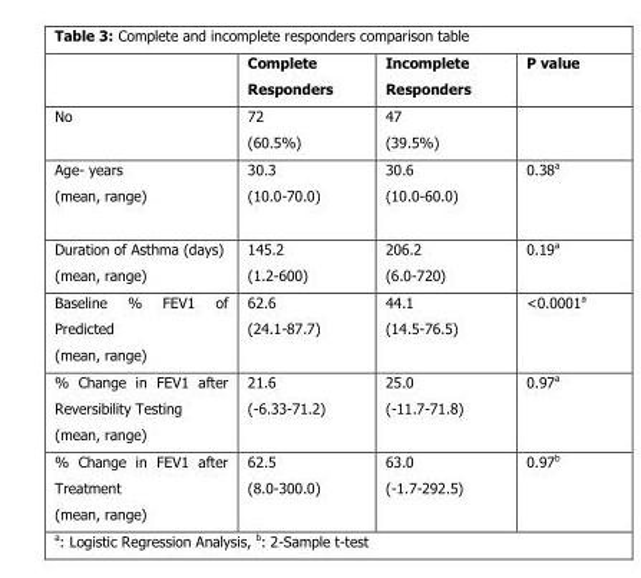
<table><thead><tr><td></td><td>Complete Responders</td><td>Incomplete Responders</td><td>P value</td></tr></thead><tbody><tr><td>No</td><td>72 (60.5%)</td><td>47 (39.5%)</td><td></td></tr><tr><td>Age- years (mean, range)</td><td>30.3 (10.0-70.0)</td><td>30.6 (10.0-60.0)</td><td>0.38<sup>a</sup></td></tr><tr><td>Duration of Asthma (days) (mean, range)</td><td>145.2 (1.2-600)</td><td>206.2 (6.0-720)</td><td>0.19<sup>a</sup></td></tr><tr><td>Baseline % FEV1 of Predicted (mean, range)</td><td>62.6 (24.1-87.7)</td><td>44.1 (14.5-76.5)</td><td>&lt;0.0001<sup>a</sup></td></tr><tr><td>% Change in FEV1 after Reversibility Testing (mean, range)</td><td>21.6 (-6.33-71.2)</td><td>25.0 (-11.7-71.8)</td><td>0.97<sup>a</sup></td></tr><tr><td>% Change in FEV1 after Treatment (mean, range)</td><td>62.5 (8.0-300.0)</td><td>63.0 (-1.7-292.5)</td><td>0.97<sup>b</sup></td></tr></tbody></table>